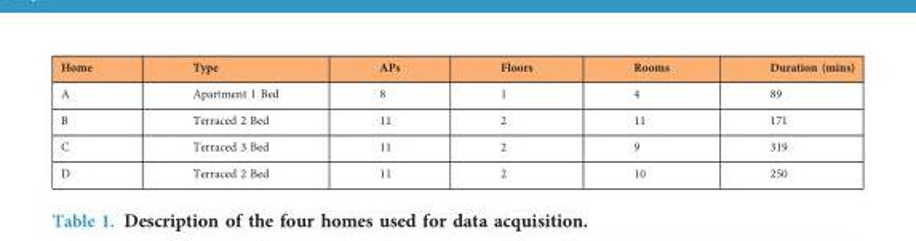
<table><thead><tr><td>Home</td><td>Type</td><td>APs</td><td>Floors</td><td>Rooms</td><td>Duration (mins)</td></tr></thead><tbody><tr><td>A</td><td>Apartment 1 Bed</td><td>8</td><td>1</td><td>4</td><td>89</td></tr><tr><td>B</td><td>Terraced 2 Bed</td><td>11</td><td>2</td><td>11</td><td>171</td></tr><tr><td>C</td><td>Terraced 3 Bed</td><td>11</td><td>2</td><td>9</td><td>319</td></tr><tr><td>D</td><td>Terraced 2 Bed</td><td>11</td><td>2</td><td>10</td><td>250</td></tr></tbody></table>